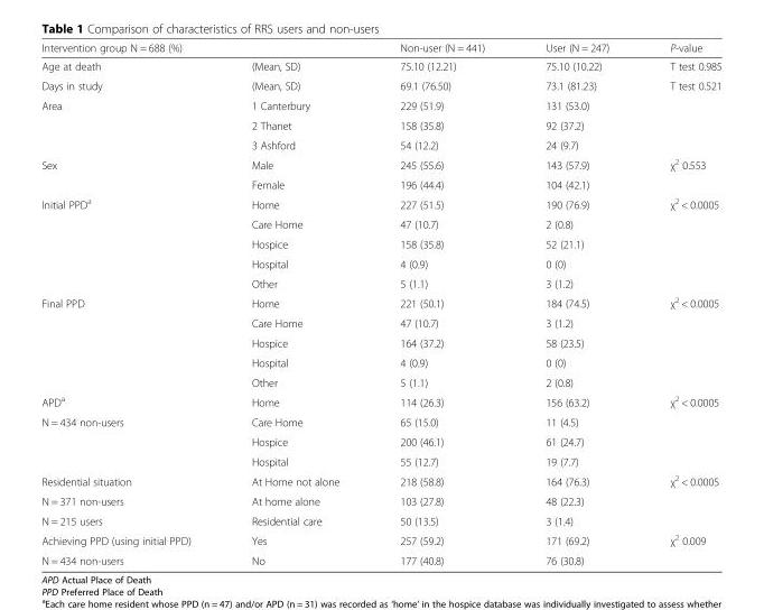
<table><thead><tr><td colspan="2">Intervention group N = 688 (%)</td><td rowspan="2">Non-user (N = 441) 75.10 (12.21)</td><td rowspan="2">User (N = 247) 75.10 (10.22)</td><td rowspan="2">P-value T test 0.985</td></tr><tr><td>Age at death</td><td>(Mean, SD)</td></tr></thead><tbody><tr><td>Days in study</td><td>(Mean, SD)</td><td>69.1 (76.50)</td><td>73.1 (81.23)</td><td>T test 0.521</td></tr><tr><td rowspan="3">Area</td><td>1 Canterbury</td><td>229 (51.9)</td><td>131 (53.0)</td><td rowspan="3"></td></tr><tr><td>2 Thanet</td><td>158 (35.8)</td><td>92 (37.2)</td></tr><tr><td>3 Ashford</td><td>54 (12.2)</td><td>24 (9.7)</td></tr><tr><td rowspan="2">Sex</td><td>Male</td><td>245 (55.6)</td><td>143 (57.9)</td><td rowspan="2">χ<sup>2</sup> 0.553</td></tr><tr><td>Female</td><td>196 (44.4)</td><td>104 (42.1)</td></tr><tr><td rowspan="5">Initial PPD<sup>a</sup></td><td>Home</td><td>227 (51.5)</td><td>190 (76.9)</td><td rowspan="5">χ<sup>2</sup> &lt; 0.0005</td></tr><tr><td>Care Home</td><td>47 (10.7)</td><td>2 (0.8)</td></tr><tr><td>Hospice</td><td>158 (35.8)</td><td>52 (21.1)</td></tr><tr><td>Hospital</td><td>4 (0.9)</td><td>0 (0)</td></tr><tr><td>Other</td><td>5 (1.1)</td><td>3 (1.2)</td></tr><tr><td rowspan="5">Final PPD</td><td>Home</td><td>221 (50.1)</td><td>184 (74.5)</td><td rowspan="5">χ<sup>2</sup> &lt; 0.0005</td></tr><tr><td>Care Home</td><td>47 (10.7)</td><td>3 (1.2)</td></tr><tr><td>Hospice</td><td>164 (37.2)</td><td>58 (23.5)</td></tr><tr><td>Hospital</td><td>4 (0.9)</td><td>0 (0)</td></tr><tr><td>Other</td><td>5 (1.1)</td><td>2 (0.8)</td></tr><tr><td>APD<sup>a</sup></td><td>Home</td><td>114 (26.3)</td><td>156 (63.2)</td><td rowspan="4">χ<sup>2</sup> &lt; 0.0005</td></tr><tr><td rowspan="3">N = 434 non-users</td><td>Care Home</td><td>65 (15.0)</td><td>11 (4.5)</td></tr><tr><td>Hospice</td><td>200 (46.1)</td><td>61 (24.7)</td></tr><tr><td>Hospital</td><td>55 (12.7)</td><td>19 (7.7)</td></tr><tr><td>Residential situation</td><td>At Home not alone</td><td>218 (58.8)</td><td>164 (76.3)</td><td rowspan="3">χ<sup>2</sup> &lt; 0.0005</td></tr><tr><td>N = 371 non-users</td><td>At home alone</td><td>103 (27.8)</td><td>48 (22.3)</td></tr><tr><td>N = 215 users</td><td>Residential care</td><td>50 (13.5)</td><td>3 (1.4)</td></tr><tr><td>Achieving PPD (using initial PPD)</td><td>Yes</td><td>257 (59.2)</td><td>171 (69.2)</td><td rowspan="2">χ<sup>2</sup> 0.009</td></tr><tr><td>N = 434 non-users</td><td>No</td><td>177 (40.8)</td><td>76 (30.8)</td></tr></tbody></table>